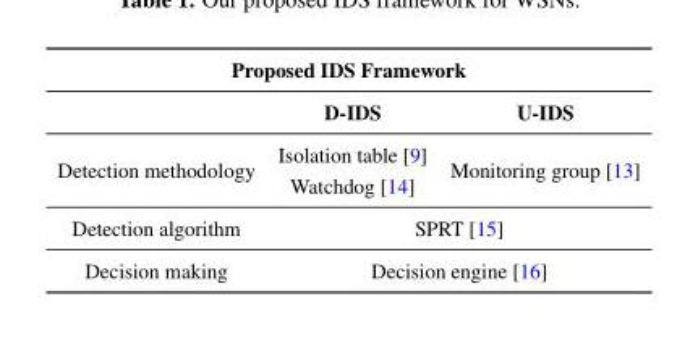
<table><thead><tr><td colspan="3">Proposed IDS Framework</td></tr><tr><td></td><td>D-IDS</td><td>U-IDS</td></tr></thead><tbody><tr><td rowspan="2">Detection methodology</td><td>Isolation table [9]</td><td rowspan="2">Monitoring group [13]</td></tr><tr><td>Watchdog [14]</td></tr><tr><td>Detection algorithm</td><td colspan="2">SPRT [15]</td></tr><tr><td>Decision making</td><td colspan="2">Decision engine [16]</td></tr></tbody></table>